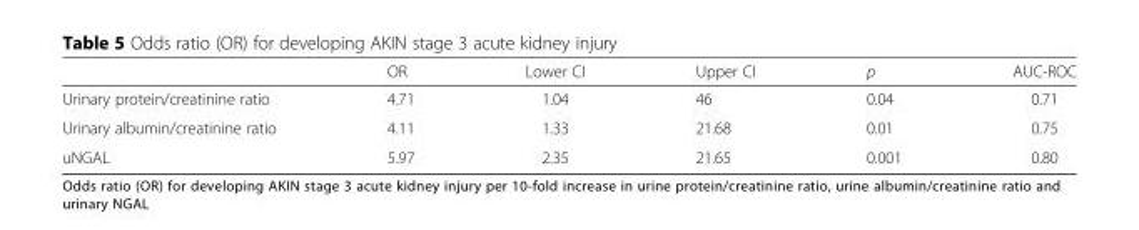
<table><thead><tr><td></td><td>OR</td><td>Lower CI</td><td>Upper CI</td><td>p</td><td>AUC-ROC</td></tr></thead><tbody><tr><td>Urinary protein/creatinine ratio</td><td>4.71</td><td>1.04</td><td>46</td><td>0.04</td><td>0.71</td></tr><tr><td>Urinary albumin/creatinine ratio</td><td>4.11</td><td>1.33</td><td>21.68</td><td>0.01</td><td>0.75</td></tr><tr><td>uNGAL</td><td>5.97</td><td>2.35</td><td>21.65</td><td>0.001</td><td>0.80</td></tr></tbody></table>